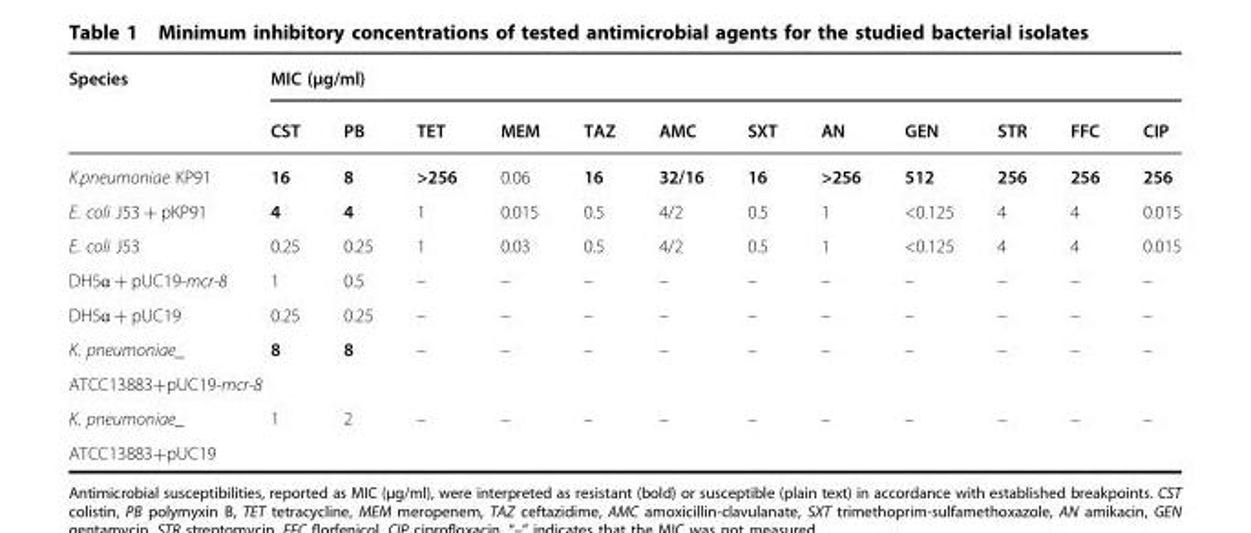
<table><thead><tr><td rowspan="2">Species</td><td colspan="12">MIC (µg/ml)</td></tr><tr><td>CST</td><td>PB</td><td>TET</td><td>MEM</td><td>TAZ</td><td>AMC</td><td>SXT</td><td>AN</td><td>GEN</td><td>STR</td><td>FFC</td><td>CIP</td></tr></thead><tbody><tr><td>K.pneumoniae KP91</td><td>16</td><td>8</td><td>&gt;256</td><td>0.06</td><td>16</td><td>32/16</td><td>16</td><td>&gt;256</td><td>512</td><td>256</td><td>256</td><td>256</td></tr><tr><td>E. coli J53 + pKP91</td><td>4</td><td>4</td><td>1</td><td>0.015</td><td>0.5</td><td>4/2</td><td>0.5</td><td>1</td><td>&lt;0.125</td><td>4</td><td>4</td><td>0.015</td></tr><tr><td>E. coli J53</td><td>0.25</td><td>0.25</td><td>1</td><td>0.03</td><td>0.5</td><td>4/2</td><td>0.5</td><td>1</td><td>&lt;0.125</td><td>4</td><td>4</td><td>0.015</td></tr><tr><td>DH5ɑ + pUC19-mcr-8</td><td>1</td><td>0.5</td><td>–</td><td>–</td><td>–</td><td>–</td><td>–</td><td>–</td><td>–</td><td>–</td><td>–</td><td>–</td></tr><tr><td>DH5ɑ + pUC19</td><td>0.25</td><td>0.25</td><td>–</td><td>–</td><td>–</td><td>–</td><td>–</td><td>–</td><td>–</td><td>–</td><td>–</td><td>–</td></tr><tr><td>K. pneumoniae_</td><td>8</td><td>8</td><td>–</td><td>–</td><td>–</td><td>–</td><td>–</td><td>–</td><td>–</td><td>–</td><td>–</td><td>–</td></tr><tr><td colspan="13">ATCC13883+pUC19-mcr-8</td></tr><tr><td>K. pneumoniae_</td><td>1</td><td>2</td><td>–</td><td>–</td><td>–</td><td>–</td><td>–</td><td>–</td><td>–</td><td>–</td><td>–</td><td>–</td></tr><tr><td colspan="13">ATCC13883+pUC19</td></tr></tbody></table>